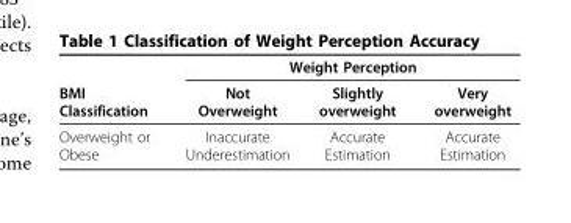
<table><thead><tr><td rowspan="2">BMI Classification</td><td colspan="3">Weight Perception</td></tr><tr><td>Not Overweight</td><td>Slightly overweight</td><td>Very overweight</td></tr></thead><tbody><tr><td>Overweight or Obese</td><td>Inaccurate Underestimation</td><td>Accurate Estimation</td><td>Accurate Estimation</td></tr></tbody></table>